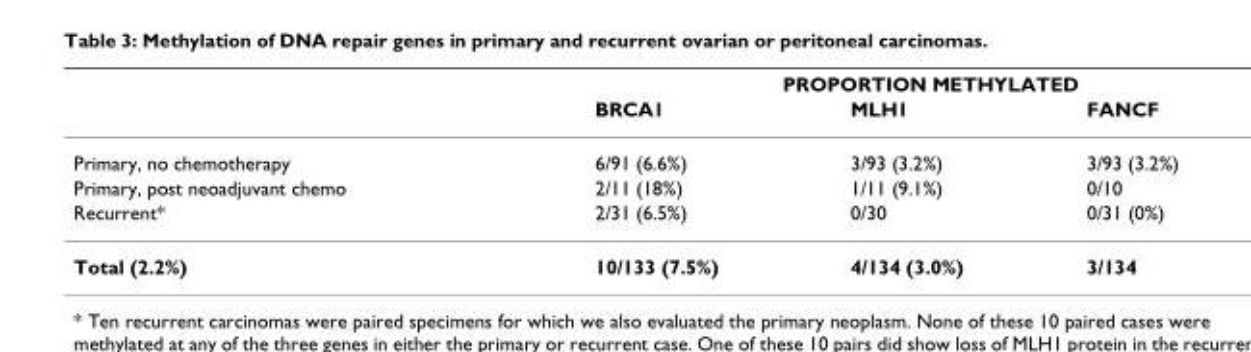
<table><thead><tr><td rowspan="2"></td><td colspan="3">PROPORTION METHYLATED</td></tr><tr><td>BRCA1</td><td>MLH1</td><td>FANCF</td></tr></thead><tbody><tr><td>Primary, no chemotherapy</td><td>6/91 (6.6%)</td><td>3/93 (3.2%)</td><td>3/93 (3.2%)</td></tr><tr><td>Primary, post neoadjuvant chemo</td><td>2/11 (18%)</td><td>1/11 (9.1%)</td><td>0/10</td></tr><tr><td>Recurrent*</td><td>2/31 (6.5%)</td><td>0/30</td><td>0/31 (0%)</td></tr><tr><td>Total (2.2%)</td><td>10/133 (7.5%)</td><td>4/134 (3.0%)</td><td>3/134</td></tr></tbody></table>